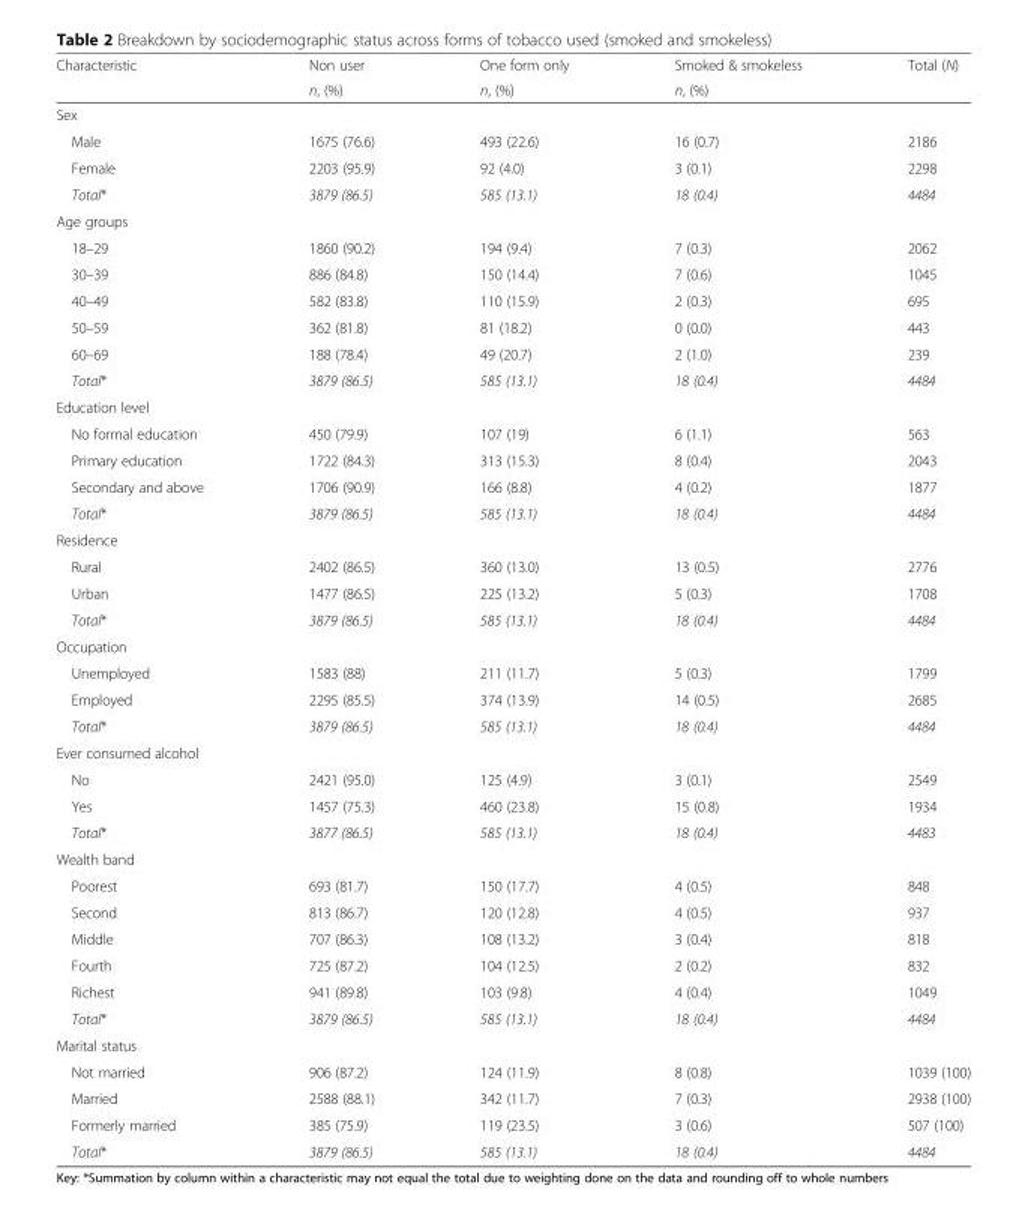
<table><thead><tr><td rowspan="2">Characteristic</td><td rowspan="2">Non user n, (%)</td><td rowspan="2">One form only n, (%)</td><td rowspan="2">Smoked &amp; smokeless n, (%)</td><td rowspan="2">Total (N)</td></tr><tr></tr></thead><tbody><tr><td colspan="5">Sex</td></tr><tr><td>Male</td><td>1675 (76.6)</td><td>493 (22.6)</td><td>16 (0.7)</td><td>2186</td></tr><tr><td>Female</td><td>2203 (95.9)</td><td>92 (4.0)</td><td>3 (0.1)</td><td>2298</td></tr><tr><td>Total*</td><td>3879 (86.5)</td><td>585 (13.1)</td><td>18 (0.4)</td><td>4484</td></tr><tr><td colspan="5">Age groups</td></tr><tr><td>18–29</td><td>1860 (90.2)</td><td>194 (9.4)</td><td>7 (0.3)</td><td>2062</td></tr><tr><td>30–39</td><td>886 (84.8)</td><td>150 (14.4)</td><td>7 (0.6)</td><td>1045</td></tr><tr><td>40–49</td><td>582 (83.8)</td><td>110 (15.9)</td><td>2 (0.3)</td><td>695</td></tr><tr><td>50–59</td><td>362 (81.8)</td><td>81 (18.2)</td><td>0 (0.0)</td><td>443</td></tr><tr><td>60–69</td><td>188 (78.4)</td><td>49 (20.7)</td><td>2 (1.0)</td><td>239</td></tr><tr><td>Total*</td><td>3879 (86.5)</td><td>585 (13.1)</td><td>18 (0.4)</td><td>4484</td></tr><tr><td colspan="5">Education level</td></tr><tr><td>No formal education</td><td>450 (79.9)</td><td>107 (19)</td><td>6 (1.1)</td><td>563</td></tr><tr><td>Primary education</td><td>1722 (84.3)</td><td>313 (15.3)</td><td>8 (0.4)</td><td>2043</td></tr><tr><td>Secondary and above</td><td>1706 (90.9)</td><td>166 (8.8)</td><td>4 (0.2)</td><td>1877</td></tr><tr><td>Total*</td><td>3879 (86.5)</td><td>585 (13.1)</td><td>18 (0.4)</td><td>4484</td></tr><tr><td colspan="5">Residence</td></tr><tr><td>Rural</td><td>2402 (86.5)</td><td>360 (13.0)</td><td>13 (0.5)</td><td>2776</td></tr><tr><td>Urban</td><td>1477 (86.5)</td><td>225 (13.2)</td><td>5 (0.3)</td><td>1708</td></tr><tr><td>Total*</td><td>3879 (86.5)</td><td>585 (13.1)</td><td>18 (0.4)</td><td>4484</td></tr><tr><td colspan="5">Occupation</td></tr><tr><td>Unemployed</td><td>1583 (88)</td><td>211 (11.7)</td><td>5 (0.3)</td><td>1799</td></tr><tr><td>Employed</td><td>2295 (85.5)</td><td>374 (13.9)</td><td>14 (0.5)</td><td>2685</td></tr><tr><td>Total*</td><td>3879 (86.5)</td><td>585 (13.1)</td><td>18 (0.4)</td><td>4484</td></tr><tr><td colspan="5">Ever consumed alcohol</td></tr><tr><td>No</td><td>2421 (95.0)</td><td>125 (4.9)</td><td>3 (0.1)</td><td>2549</td></tr><tr><td>Yes</td><td>1457 (75.3)</td><td>460 (23.8)</td><td>15 (0.8)</td><td>1934</td></tr><tr><td>Total*</td><td>3877 (86.5)</td><td>585 (13.1)</td><td>18 (0.4)</td><td>4483</td></tr><tr><td colspan="5">Wealth band</td></tr><tr><td>Poorest</td><td>693 (81.7)</td><td>150 (17.7)</td><td>4 (0.5)</td><td>848</td></tr><tr><td>Second</td><td>813 (86.7)</td><td>120 (12.8)</td><td>4 (0.5)</td><td>937</td></tr><tr><td>Middle</td><td>707 (86.3)</td><td>108 (13.2)</td><td>3 (0.4)</td><td>818</td></tr><tr><td>Fourth</td><td>725 (87.2)</td><td>104 (12.5)</td><td>2 (0.2)</td><td>832</td></tr><tr><td>Richest</td><td>941 (89.8)</td><td>103 (9.8)</td><td>4 (0.4)</td><td>1049</td></tr><tr><td>Total*</td><td>3879 (86.5)</td><td>585 (13.1)</td><td>18 (0.4)</td><td>4484</td></tr><tr><td colspan="5">Marital status</td></tr><tr><td>Not married</td><td>906 (87.2)</td><td>124 (11.9)</td><td>8 (0.8)</td><td>1039 (100)</td></tr><tr><td>Married</td><td>2588 (88.1)</td><td>342 (11.7)</td><td>7 (0.3)</td><td>2938 (100)</td></tr><tr><td>Formerly married</td><td>385 (75.9)</td><td>119 (23.5)</td><td>3 (0.6)</td><td>507 (100)</td></tr><tr><td>Total*</td><td>3879 (86.5)</td><td>585 (13.1)</td><td>18 (0.4)</td><td>4484</td></tr></tbody></table>